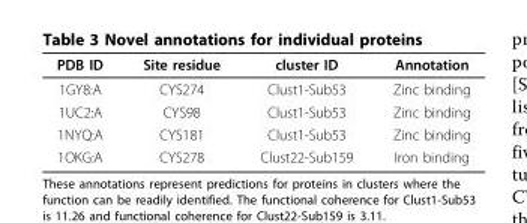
<table><thead><tr><td>PDB ID</td><td>Site residue</td><td>cluster ID</td><td>Annotation</td></tr></thead><tbody><tr><td>1GY8:A</td><td>CYS274</td><td>Clust1-Sub53</td><td>Zinc binding</td></tr><tr><td>1UC2:A</td><td>CYS98</td><td>Clust1-Sub53</td><td>Zinc binding</td></tr><tr><td>1NYQ:A</td><td>CYS181</td><td>Clust1-Sub53</td><td>Zinc binding</td></tr><tr><td>1OKG:A</td><td>CYS278</td><td>Clust22-Sub159</td><td>Iron binding</td></tr></tbody></table>